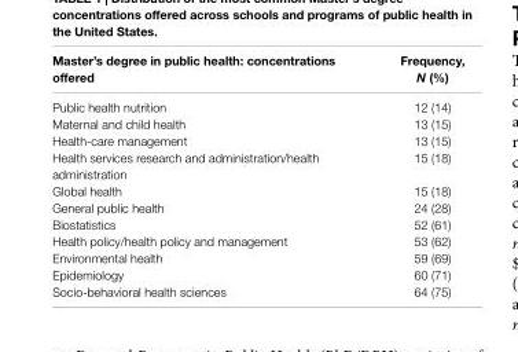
<table><thead><tr><td>Master’s degree in public health: concentrations offered</td><td>Frequency, N (%)</td></tr></thead><tbody><tr><td>Public health nutrition</td><td>12 (14)</td></tr><tr><td>Maternal and child health</td><td>13 (15)</td></tr><tr><td>Health-care management</td><td>13 (15)</td></tr><tr><td>Health services research and administration/health administration</td><td>15 (18)</td></tr><tr><td>Global health</td><td>15 (18)</td></tr><tr><td>General public health</td><td>24 (28)</td></tr><tr><td>Biostatistics</td><td>52 (61)</td></tr><tr><td>Health policy/health policy and management</td><td>53 (62)</td></tr><tr><td>Environmental health</td><td>59 (69)</td></tr><tr><td>Epidemiology</td><td>60 (71)</td></tr><tr><td>Socio-behavioral health sciences</td><td>64 (75)</td></tr></tbody></table>